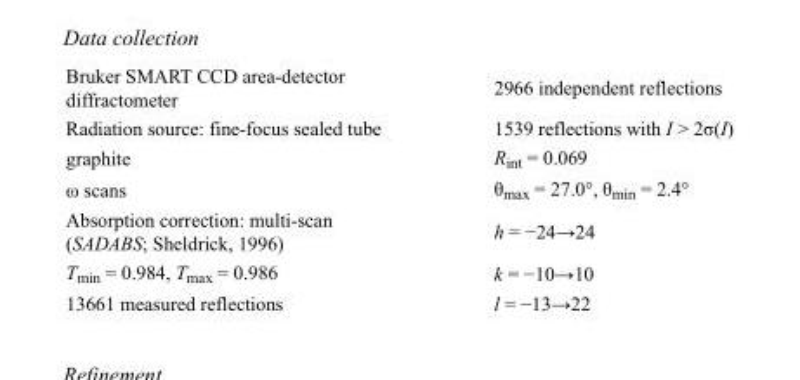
<table><tbody><tr><td>Bruker SMART CCD area-detector diffractometer</td><td>2966 independent reflections</td></tr><tr><td>Radiation source: fine-focus sealed tube</td><td>1539 reflections with I &gt; 2σ(I)</td></tr><tr><td>graphite</td><td>R<sub>int</sub> = 0.069</td></tr><tr><td>ω scans</td><td>θ<sub>max</sub> = 27.0°, θ<sub>min</sub> = 2.4°</td></tr><tr><td>Absorption correction: multi-scan (SADABS; Sheldrick, 1996)</td><td>h = −24→24</td></tr><tr><td>T<sub>min</sub> = 0.984, T<sub>max</sub> = 0.986</td><td>k = −10→10</td></tr><tr><td>13661 measured reflections</td><td>l = −13→22</td></tr></tbody></table>